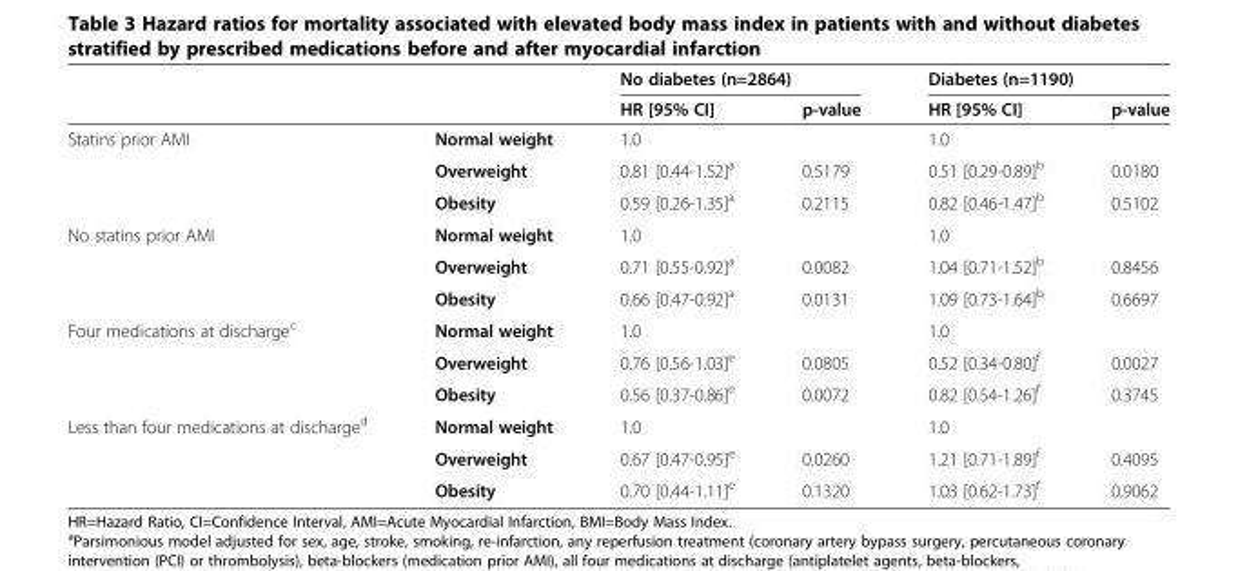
<table><thead><tr><td rowspan="2"></td><td rowspan="2"></td><td colspan="2">No diabetes (n=2864)</td><td colspan="2">Diabetes (n=1190)</td></tr><tr><td>HR [95% CI]</td><td>p-value</td><td>HR [95% CI]</td><td>p-value</td></tr></thead><tbody><tr><td rowspan="3">Statins prior AMI</td><td>Normal weight</td><td>1.0</td><td></td><td>1.0</td><td></td></tr><tr><td>Overweight</td><td>0.81 [0.44-1.52]<sup>a</sup></td><td>0.5179</td><td>0.51 [0.29-0.89]<sup>b</sup></td><td>0.0180</td></tr><tr><td>Obesity</td><td>0.59 [0.26-1.35]<sup>a</sup></td><td>0.2115</td><td>0.82 [0.46-1.47]<sup>b</sup></td><td>0.5102</td></tr><tr><td rowspan="3">No statins prior AMI</td><td>Normal weight</td><td>1.0</td><td></td><td>1.0</td><td></td></tr><tr><td>Overweight</td><td>0.71 [0.55-0.92]<sup>a</sup></td><td>0.0082</td><td>1.04 [0.71-1.52]<sup>b</sup></td><td>0.8456</td></tr><tr><td>Obesity</td><td>0.66 [0.47-0.92]<sup>a</sup></td><td>0.0131</td><td>1.09 [0.73-1.64]<sup>b</sup></td><td>0.6697</td></tr><tr><td rowspan="3">Four medications at discharge<sup>c</sup></td><td>Normal weight</td><td>1.0</td><td></td><td>1.0</td><td></td></tr><tr><td>Overweight</td><td>0.76 [0.56-1.03]<sup>e</sup></td><td>0.0805</td><td>0.52 [0.34-0.80]<sup>f</sup></td><td>0.0027</td></tr><tr><td>Obesity</td><td>0.56 [0.37-0.86]<sup>e</sup></td><td>0.0072</td><td>0.82 [0.54-1.26]<sup>f</sup></td><td>0.3745</td></tr><tr><td rowspan="3">Less than four medications at discharge<sup>d</sup></td><td>Normal weight</td><td>1.0</td><td></td><td>1.0</td><td></td></tr><tr><td>Overweight</td><td>0.67 [0.47-0.95]<sup>e</sup></td><td>0.0260</td><td>1.21 [0.71-1.89]<sup>f</sup></td><td>0.4095</td></tr><tr><td>Obesity</td><td>0.70 [0.44-1.11]<sup>e</sup></td><td>0.1320</td><td>1.03 [0.62-1.73]<sup>f</sup></td><td>0.9062</td></tr></tbody></table>